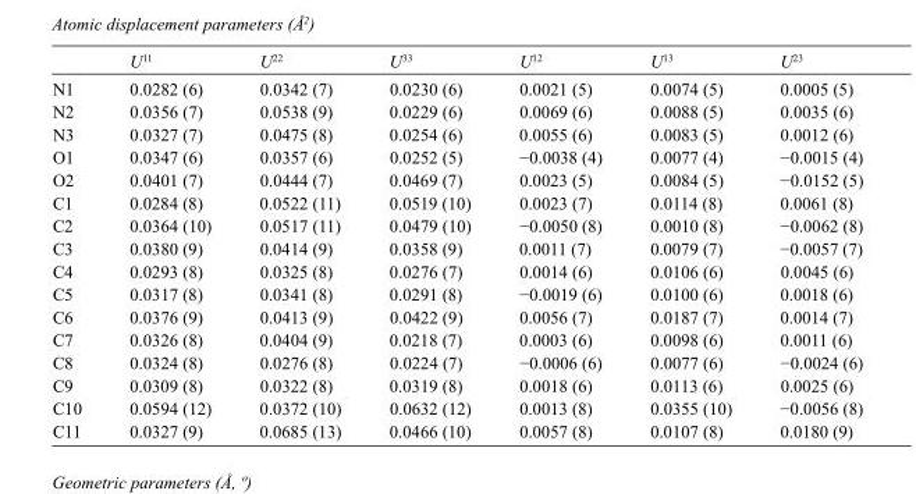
<table><thead><tr><td></td><td>U<sup>11</sup></td><td>U<sup>22</sup></td><td>U<sup>33</sup></td><td>U<sup>12</sup></td><td>U<sup>13</sup></td><td>U<sup>23</sup></td></tr></thead><tbody><tr><td>N1</td><td>0.0282 (6)</td><td>0.0342 (7)</td><td>0.0230 (6)</td><td>0.0021 (5)</td><td>0.0074 (5)</td><td>0.0005 (5)</td></tr><tr><td>N2</td><td>0.0356 (7)</td><td>0.0538 (9)</td><td>0.0229 (6)</td><td>0.0069 (6)</td><td>0.0088 (5)</td><td>0.0035 (6)</td></tr><tr><td>N3</td><td>0.0327 (7)</td><td>0.0475 (8)</td><td>0.0254 (6)</td><td>0.0055 (6)</td><td>0.0083 (5)</td><td>0.0012 (6)</td></tr><tr><td>O1</td><td>0.0347 (6)</td><td>0.0357 (6)</td><td>0.0252 (5)</td><td>−0.0038 (4)</td><td>0.0077 (4)</td><td>−0.0015 (4)</td></tr><tr><td>O2</td><td>0.0401 (7)</td><td>0.0444 (7)</td><td>0.0469 (7)</td><td>0.0023 (5)</td><td>0.0084 (5)</td><td>−0.0152 (5)</td></tr><tr><td>C1</td><td>0.0284 (8)</td><td>0.0522 (11)</td><td>0.0519 (10)</td><td>0.0023 (7)</td><td>0.0114 (8)</td><td>0.0061 (8)</td></tr><tr><td>C2</td><td>0.0364 (10)</td><td>0.0517 (11)</td><td>0.0479 (10)</td><td>−0.0050 (8)</td><td>0.0010 (8)</td><td>−0.0062 (8)</td></tr><tr><td>C3</td><td>0.0380 (9)</td><td>0.0414 (9)</td><td>0.0358 (9)</td><td>0.0011 (7)</td><td>0.0079 (7)</td><td>−0.0057 (7)</td></tr><tr><td>C4</td><td>0.0293 (8)</td><td>0.0325 (8)</td><td>0.0276 (7)</td><td>0.0014 (6)</td><td>0.0106 (6)</td><td>0.0045 (6)</td></tr><tr><td>C5</td><td>0.0317 (8)</td><td>0.0341 (8)</td><td>0.0291 (8)</td><td>−0.0019 (6)</td><td>0.0100 (6)</td><td>0.0018 (6)</td></tr><tr><td>C6</td><td>0.0376 (9)</td><td>0.0413 (9)</td><td>0.0422 (9)</td><td>0.0056 (7)</td><td>0.0187 (7)</td><td>0.0014 (7)</td></tr><tr><td>C7</td><td>0.0326 (8)</td><td>0.0404 (9)</td><td>0.0218 (7)</td><td>0.0003 (6)</td><td>0.0098 (6)</td><td>0.0011 (6)</td></tr><tr><td>C8</td><td>0.0324 (8)</td><td>0.0276 (8)</td><td>0.0224 (7)</td><td>−0.0006 (6)</td><td>0.0077 (6)</td><td>−0.0024 (6)</td></tr><tr><td>C9</td><td>0.0309 (8)</td><td>0.0322 (8)</td><td>0.0319 (8)</td><td>0.0018 (6)</td><td>0.0113 (6)</td><td>0.0025 (6)</td></tr><tr><td>C10</td><td>0.0594 (12)</td><td>0.0372 (10)</td><td>0.0632 (12)</td><td>0.0013 (8)</td><td>0.0355 (10)</td><td>−0.0056 (8)</td></tr><tr><td>C11</td><td>0.0327 (9)</td><td>0.0685 (13)</td><td>0.0466 (10)</td><td>0.0057 (8)</td><td>0.0107 (8)</td><td>0.0180 (9)</td></tr></tbody></table>